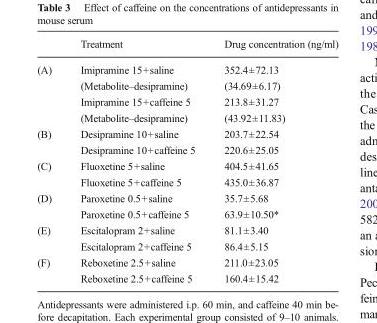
<table><thead><tr><td></td><td>Treatment</td><td>Drug concentration (ng/ml)</td></tr></thead><tbody><tr><td rowspan="4">(A)</td><td>Imipramine 15+saline</td><td>352.4±72.13</td></tr><tr><td>(Metabolite–desipramine)</td><td>(34.69±6.17)</td></tr><tr><td>Imipramine 15+caffeine 5</td><td>213.8±31.27</td></tr><tr><td>(Metabolite–desipramine)</td><td>(43.92±11.83)</td></tr><tr><td rowspan="2">(B)</td><td>Desipramine 10+saline</td><td>203.7±22.54</td></tr><tr><td>Desipramine 10+caffeine 5</td><td>220.6±25.05</td></tr><tr><td rowspan="2">(C)</td><td>Fluoxetine 5+saline</td><td>404.5±41.65</td></tr><tr><td>Fluoxetine 5+caffeine 5</td><td>435.0±36.87</td></tr><tr><td rowspan="2">(D)</td><td>Paroxetine 0.5+saline</td><td>35.7±5.68</td></tr><tr><td>Paroxetine 0.5+caffeine 5</td><td>63.9±10.50*</td></tr><tr><td rowspan="2">(E)</td><td>Escitalopram 2+saline</td><td>81.1±3.40</td></tr><tr><td>Escitalopram 2+caffeine 5</td><td>86.4±5.15</td></tr><tr><td rowspan="2">(F)</td><td>Reboxetine 2.5+saline</td><td>211.0±23.05</td></tr><tr><td>Reboxetine 2.5+caffeine 5</td><td>160.4±15.42</td></tr></tbody></table>